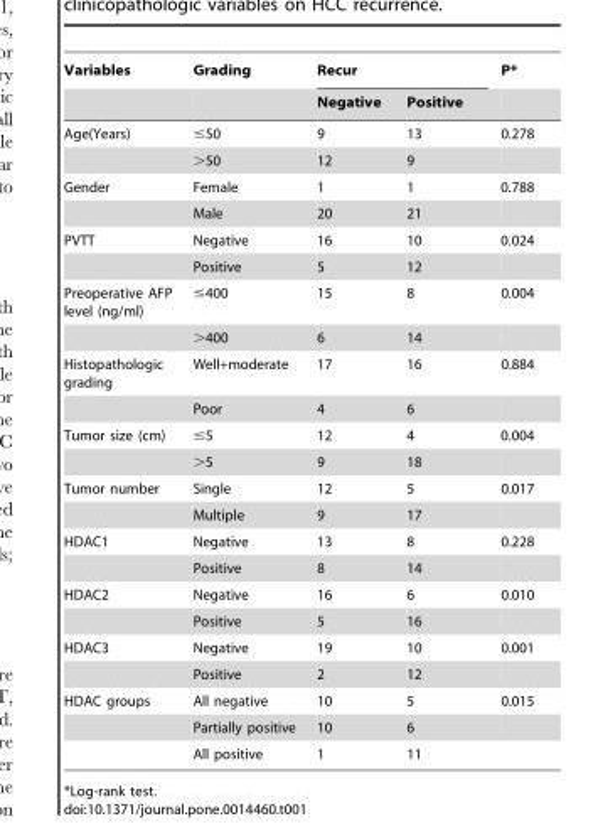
<table><thead><tr><td rowspan="2">Variables</td><td rowspan="2">Grading</td><td colspan="2">Recur</td><td rowspan="2">P*</td></tr><tr><td>Negative</td><td>Positive</td></tr></thead><tbody><tr><td rowspan="2">Age(Years)</td><td>≤50</td><td>9</td><td>13</td><td>0.278</td></tr><tr><td>&gt;50</td><td>12</td><td>9</td><td></td></tr><tr><td rowspan="2">Gender</td><td>Female</td><td>1</td><td>1</td><td>0.788</td></tr><tr><td>Male</td><td>20</td><td>21</td><td></td></tr><tr><td rowspan="2">PVTT</td><td>Negative</td><td>16</td><td>10</td><td>0.024</td></tr><tr><td>Positive</td><td>5</td><td>12</td><td></td></tr><tr><td rowspan="2">Preoperative AFP level (ng/ml)</td><td>≤400</td><td>15</td><td>8</td><td>0.004</td></tr><tr><td>&gt;400</td><td>6</td><td>14</td><td></td></tr><tr><td rowspan="2">Histopathologic grading</td><td>Well+moderate</td><td>17</td><td>16</td><td>0.884</td></tr><tr><td>Poor</td><td>4</td><td>6</td><td></td></tr><tr><td rowspan="2">Tumor size (cm)</td><td>≤5</td><td>12</td><td>4</td><td>0.004</td></tr><tr><td>&gt;5</td><td>9</td><td>18</td><td></td></tr><tr><td rowspan="2">Tumor number</td><td>Single</td><td>12</td><td>5</td><td>0.017</td></tr><tr><td>Multiple</td><td>9</td><td>17</td><td></td></tr><tr><td rowspan="2">HDAC1</td><td>Negative</td><td>13</td><td>8</td><td>0.228</td></tr><tr><td>Positive</td><td>8</td><td>14</td><td></td></tr><tr><td rowspan="2">HDAC2</td><td>Negative</td><td>16</td><td>6</td><td>0.010</td></tr><tr><td>Positive</td><td>5</td><td>16</td><td></td></tr><tr><td rowspan="2">HDAC3</td><td>Negative</td><td>19</td><td>10</td><td>0.001</td></tr><tr><td>Positive</td><td>2</td><td>12</td><td></td></tr><tr><td rowspan="3">HDAC groups</td><td>All negative</td><td>10</td><td>5</td><td>0.015</td></tr><tr><td>Partially positive</td><td>10</td><td>6</td><td></td></tr><tr><td>All positive</td><td>1</td><td>11</td><td></td></tr></tbody></table>